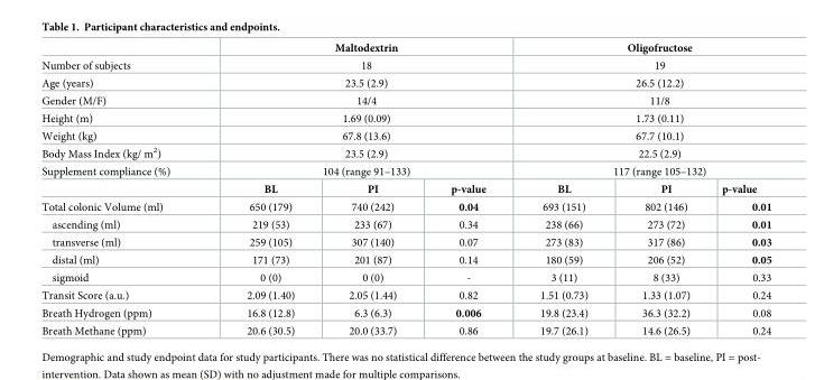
<table><thead><tr><td></td><td colspan="3">Maltodextrin</td><td colspan="3">Oligofructose</td></tr></thead><tbody><tr><td>Number of subjects</td><td colspan="3">18</td><td colspan="3">19</td></tr><tr><td>Age (years)</td><td colspan="3">23.5 (2.9)</td><td colspan="3">26.5 (12.2)</td></tr><tr><td>Gender (M/F)</td><td colspan="3">14/4</td><td colspan="3">11/8</td></tr><tr><td>Height (m)</td><td colspan="3">1.69 (0.09)</td><td colspan="3">1.73 (0.11)</td></tr><tr><td>Weight (kg)</td><td colspan="3">67.8 (13.6)</td><td colspan="3">67.7 (10.1)</td></tr><tr><td>Body Mass Index (kg/ m<sup>2</sup>)</td><td colspan="3">23.5 (2.9)</td><td colspan="3">22.5 (2.9)</td></tr><tr><td rowspan="2">Supplement compliance (%)</td><td colspan="3">104 (range 91–133)</td><td colspan="3">117 (range 105–132)</td></tr><tr><td>BL</td><td>PI</td><td>p-value</td><td>BL</td><td>PI</td><td>p-value</td></tr><tr><td>Total colonic Volume (ml)</td><td>650 (179)</td><td>740 (242)</td><td>0.04</td><td>693 (151)</td><td>802 (146)</td><td>0.01</td></tr><tr><td>ascending (ml)</td><td>219 (53)</td><td>233 (67)</td><td>0.34</td><td>238 (66)</td><td>273 (72)</td><td>0.01</td></tr><tr><td>transverse (ml)</td><td>259 (105)</td><td>307 (140)</td><td>0.07</td><td>273 (83)</td><td>317 (86)</td><td>0.03</td></tr><tr><td>distal (ml)</td><td>171 (73)</td><td>201 (87)</td><td>0.14</td><td>180 (59)</td><td>206 (52)</td><td>0.05</td></tr><tr><td>sigmoid</td><td>0 (0)</td><td>0 (0)</td><td>-</td><td>3 (11)</td><td>8 (33)</td><td>0.33</td></tr><tr><td>Transit Score (a.u.)</td><td>2.09 (1.40)</td><td>2.05 (1.44)</td><td>0.82</td><td>1.51 (0.73)</td><td>1.33 (1.07)</td><td>0.24</td></tr><tr><td>Breath Hydrogen (ppm)</td><td>16.8 (12.8)</td><td>6.3 (6.3)</td><td>0.006</td><td>19.8 (23.4)</td><td>36.3 (32.2)</td><td>0.08</td></tr><tr><td>Breath Methane (ppm)</td><td>20.6 (30.5)</td><td>20.0 (33.7)</td><td>0.86</td><td>19.7 (26.1)</td><td>14.6 (26.5)</td><td>0.24</td></tr></tbody></table>